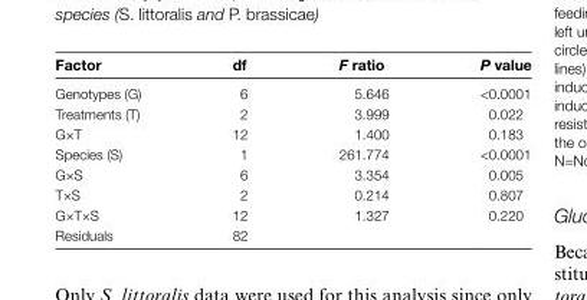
<table><thead><tr><td>Factor</td><td>df</td><td>F ratio</td><td>P value</td></tr></thead><tbody><tr><td>Genotypes (G)</td><td>6</td><td>5.646</td><td>&lt;0.0001</td></tr><tr><td>Treatments (T)</td><td>2</td><td>3.999</td><td>0.022</td></tr><tr><td>G×T</td><td>12</td><td>1.400</td><td>0.183</td></tr><tr><td>Species (S)</td><td>1</td><td>261.774</td><td>&lt;0.0001</td></tr><tr><td>G×S</td><td>6</td><td>3.354</td><td>0.005</td></tr><tr><td>T×S</td><td>2</td><td>0.214</td><td>0.807</td></tr><tr><td>G×T×S</td><td>12</td><td>1.327</td><td>0.220</td></tr><tr><td>Residuals</td><td>82</td><td></td><td></td></tr></tbody></table>